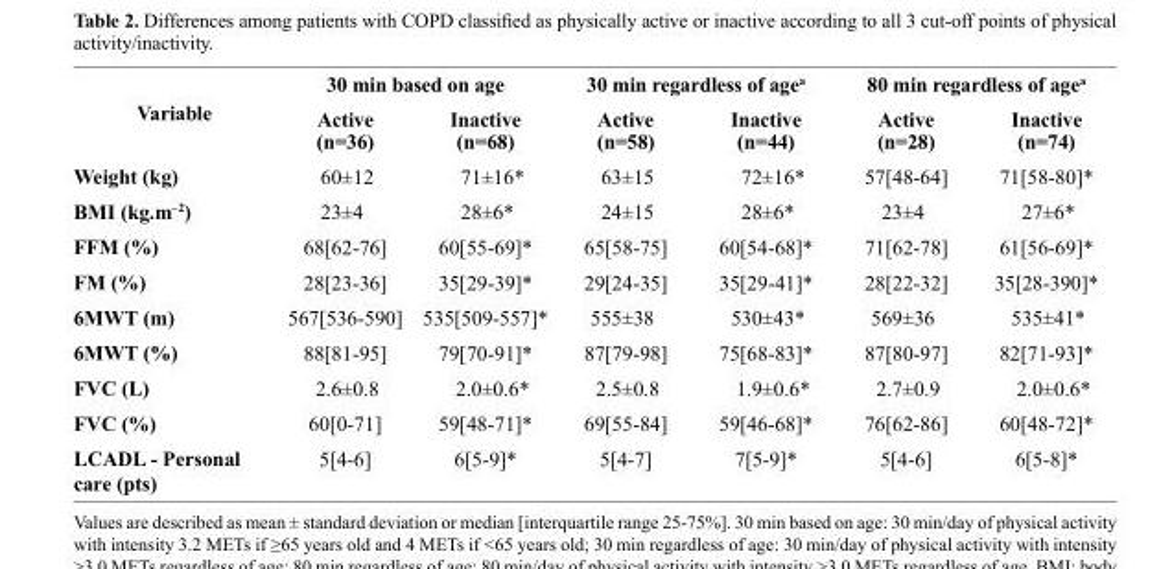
<table><thead><tr><td rowspan="2">Variable</td><td colspan="2">30 min based on age</td><td colspan="2">30 min regardless of agea</td><td colspan="2">80 min regardless of agea</td></tr><tr><td>Active (n=36)</td><td>Inactive (n=68)</td><td>Active (n=58)</td><td>Inactive (n=44)</td><td>Active (n=28)</td><td>Inactive (n=74)</td></tr></thead><tbody><tr><td>Weight (kg)</td><td>60±12</td><td>71±16*</td><td>63±15</td><td>72±16*</td><td>57[48-64]</td><td>71[58-80]*</td></tr><tr><td>BMI (kg.m<sup>–2</sup>)</td><td>23±4</td><td>28±6*</td><td>24±15</td><td>28±6*</td><td>23±4</td><td>27±6*</td></tr><tr><td>FFM (%)</td><td>68[62-76]</td><td>60[55-69]*</td><td>65[58-75]</td><td>60[54-68]*</td><td>71[62-78]</td><td>61[56-69]*</td></tr><tr><td>FM (%)</td><td>28[23-36]</td><td>35[29-39]*</td><td>29[24-35]</td><td>35[29-41]*</td><td>28[22-32]</td><td>35[28-390]*</td></tr><tr><td>6MWT (m)</td><td>567[536-590]</td><td>535[509-557]*</td><td>555±38</td><td>530±43*</td><td>569±36</td><td>535±41*</td></tr><tr><td>6MWT (%)</td><td>88[81-95]</td><td>79[70-91]*</td><td>87[79-98]</td><td>75[68-83]*</td><td>87[80-97]</td><td>82[71-93]*</td></tr><tr><td>FVC (L)</td><td>2.6±0.8</td><td>2.0±0.6*</td><td>2.5±0.8</td><td>1.9±0.6*</td><td>2.7±0.9</td><td>2.0±0.6*</td></tr><tr><td>FVC (%)</td><td>60[0-71]</td><td>59[48-71]*</td><td>69[55-84]</td><td>59[46-68]*</td><td>76[62-86]</td><td>60[48-72]*</td></tr><tr><td>LCADL - Personal care (pts)</td><td>5[4-6]</td><td>6[5-9]*</td><td>5[4-7]</td><td>7[5-9]*</td><td>5[4-6]</td><td>6[5-8]*</td></tr></tbody></table>